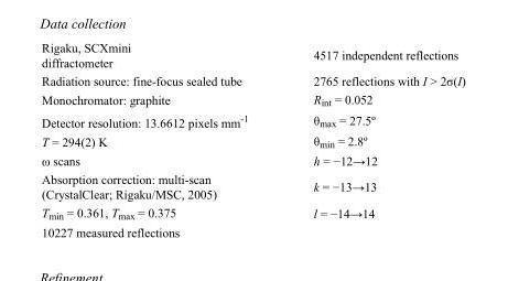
<table><tbody><tr><td>Rigaku, SCXmini diffractometer</td><td>4517 independent reflections</td></tr><tr><td>Radiation source: fine-focus sealed tube</td><td>2765 reflections with I &gt; 2σ(I)</td></tr><tr><td>Monochromator: graphite</td><td>R<sub>int</sub> = 0.052</td></tr><tr><td>Detector resolution: 13.6612 pixels mm<sup>-1</sup></td><td>θ<sub>max</sub> = 27.5º</td></tr><tr><td>T = 294(2) K</td><td>θ<sub>min</sub> = 2.8º</td></tr><tr><td>ω scans</td><td>h = −12→12</td></tr><tr><td>Absorption correction: multi-scan (CrystalClear; Rigaku/MSC, 2005)</td><td>k = −13→13</td></tr><tr><td>T<sub>min</sub> = 0.361, T<sub>max</sub> = 0.375</td><td>l = −14→14</td></tr><tr><td>10227 measured reflections</td><td></td></tr></tbody></table>